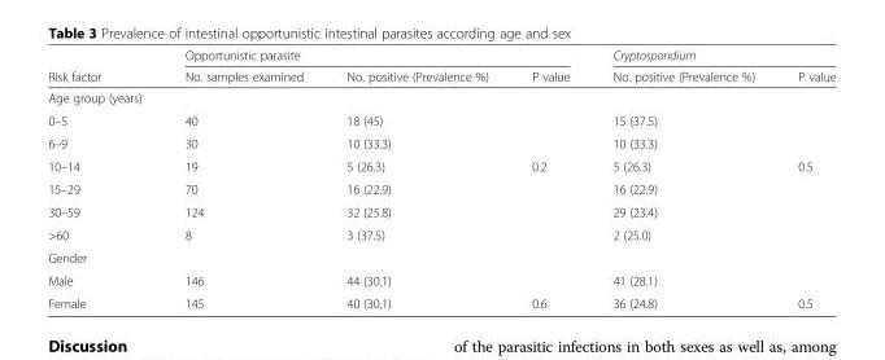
<table><thead><tr><td rowspan="2">Risk factor</td><td colspan="3">Opportunistic parasite</td><td colspan="2">Cryptosporidium</td></tr><tr><td>No. samples examined</td><td>No. positive (Prevalence %)</td><td>P value</td><td>No. positive (Prevalence %)</td><td>P value</td></tr></thead><tbody><tr><td colspan="6">Age group (years)</td></tr><tr><td>0–5</td><td>40</td><td>18 (45)</td><td></td><td>15 (37.5)</td><td></td></tr><tr><td>6–9</td><td>30</td><td>10 (33.3)</td><td></td><td>10 (33.3)</td><td></td></tr><tr><td>10–14</td><td>19</td><td>5 (26.3)</td><td>0.2</td><td>5 (26.3)</td><td>0.5</td></tr><tr><td>15–29</td><td>70</td><td>16 (22.9)</td><td></td><td>16 (22.9)</td><td></td></tr><tr><td>30–59</td><td>124</td><td>32 (25.8)</td><td></td><td>29 (23.4)</td><td></td></tr><tr><td>&gt;60</td><td>8</td><td>3 (37.5)</td><td></td><td>2 (25.0)</td><td></td></tr><tr><td colspan="6">Gender</td></tr><tr><td>Male</td><td>146</td><td>44 (30,1)</td><td></td><td>41 (28.1)</td><td></td></tr><tr><td>Female</td><td>145</td><td>40 (30,1)</td><td>0.6</td><td>36 (24.8)</td><td>0.5</td></tr></tbody></table>